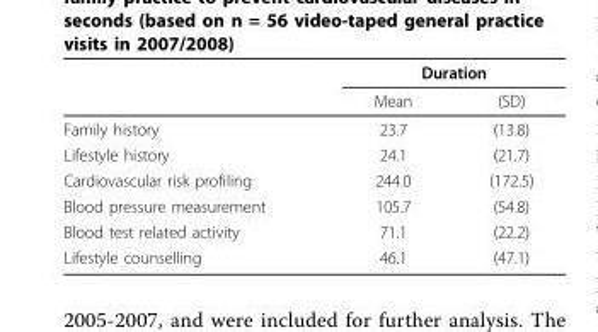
<table><thead><tr><td rowspan="2"></td><td colspan="2">Duration</td></tr><tr><td>Mean</td><td>(SD)</td></tr></thead><tbody><tr><td>Family history</td><td>23.7</td><td>(13.8)</td></tr><tr><td>Lifestyle history</td><td>24.1</td><td>(21.7)</td></tr><tr><td>Cardiovascular risk profiling</td><td>244.0</td><td>(172.5)</td></tr><tr><td>Blood pressure measurement</td><td>105.7</td><td>(54.8)</td></tr><tr><td>Blood test related activity</td><td>71.1</td><td>(22.2)</td></tr><tr><td>Lifestyle counselling</td><td>46.1</td><td>(47.1)</td></tr></tbody></table>